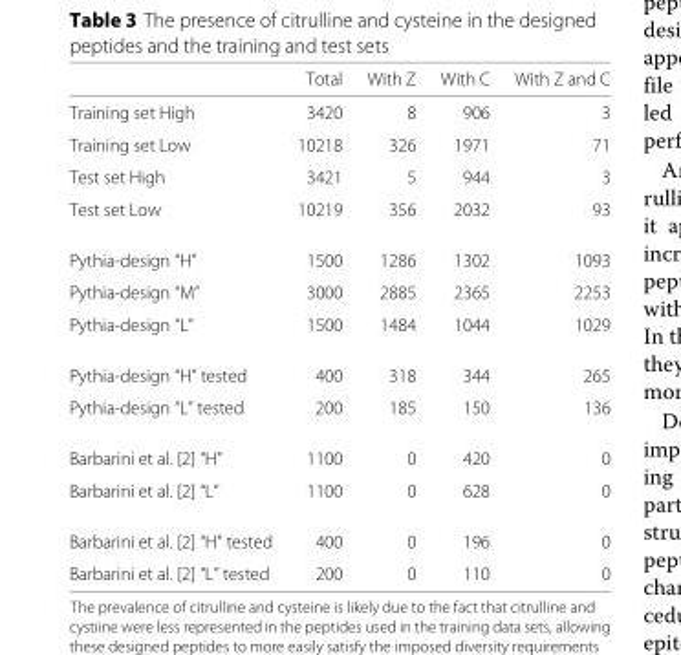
<table><thead><tr><td></td><td>Total</td><td>With Z</td><td>With C</td><td>With Z and C</td></tr></thead><tbody><tr><td>Training set High</td><td>3420</td><td>8</td><td>906</td><td>3</td></tr><tr><td>Training set Low</td><td>10218</td><td>326</td><td>1971</td><td>71</td></tr><tr><td>Test set High</td><td>3421</td><td>5</td><td>944</td><td>3</td></tr><tr><td>Test set Low</td><td>10219</td><td>356</td><td>2032</td><td>93</td></tr><tr><td>Pythia-design “H”</td><td>1500</td><td>1286</td><td>1302</td><td>1093</td></tr><tr><td>Pythia-design “M”</td><td>3000</td><td>2885</td><td>2365</td><td>2253</td></tr><tr><td>Pythia-design “L”</td><td>1500</td><td>1484</td><td>1044</td><td>1029</td></tr><tr><td>Pythia-design “H” tested</td><td>400</td><td>318</td><td>344</td><td>265</td></tr><tr><td>Pythia-design “L” tested</td><td>200</td><td>185</td><td>150</td><td>136</td></tr><tr><td>Barbarini et al. [2] “H”</td><td>1100</td><td>0</td><td>420</td><td>0</td></tr><tr><td>Barbarini et al. [2] “L”</td><td>1100</td><td>0</td><td>628</td><td>0</td></tr><tr><td>Barbarini et al. [2] “H” tested</td><td>400</td><td>0</td><td>196</td><td>0</td></tr><tr><td>Barbarini et al. [2] “L” tested</td><td>200</td><td>0</td><td>110</td><td>0</td></tr></tbody></table>